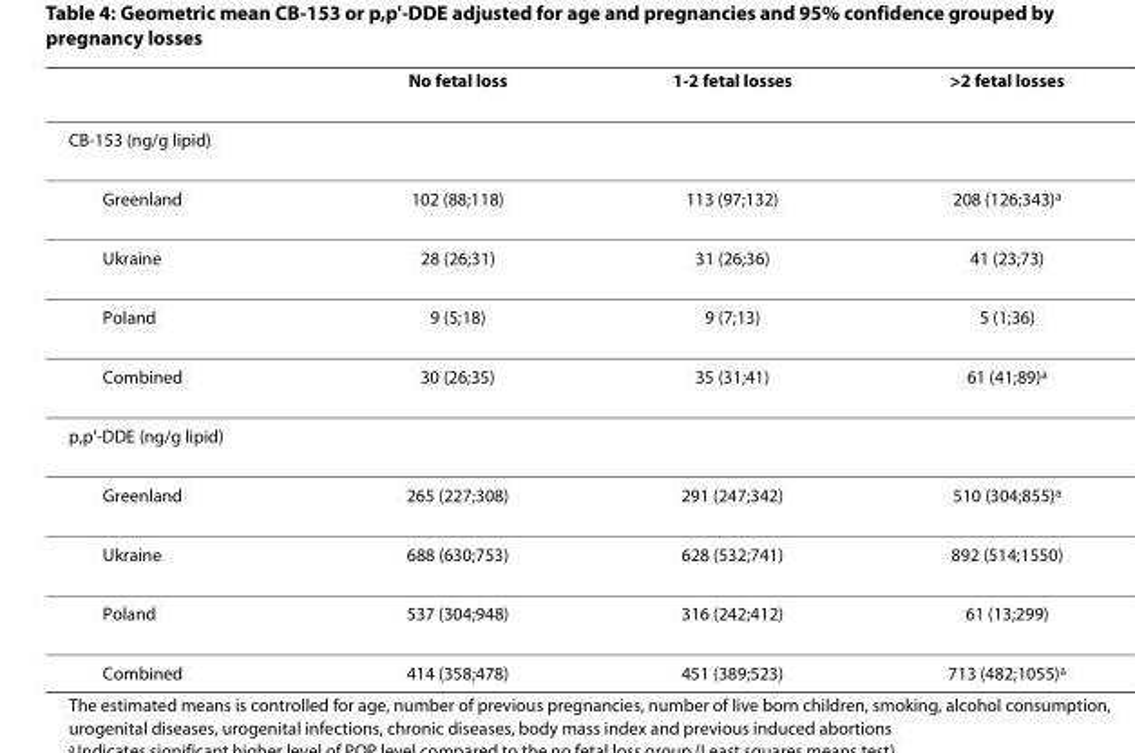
<table><thead><tr><td></td><td>No fetal loss</td><td>1-2 fetal losses</td><td>&gt;2 fetal losses</td></tr></thead><tbody><tr><td colspan="4">CB-153 (ng/g lipid)</td></tr><tr><td>Greenland</td><td>102 (88;118)</td><td>113 (97;132)</td><td>208 (126;343)<sup>a</sup></td></tr><tr><td>Ukraine</td><td>28 (26;31)</td><td>31 (26;36)</td><td>41 (23;73)</td></tr><tr><td>Poland</td><td>9 (5;18)</td><td>9 (7;13)</td><td>5 (1;36)</td></tr><tr><td>Combined</td><td>30 (26;35)</td><td>35 (31;41)</td><td>61 (41;89)<sup>a</sup></td></tr><tr><td colspan="4">p,p&#x27;-DDE (ng/g lipid)</td></tr><tr><td>Greenland</td><td>265 (227;308)</td><td>291 (247;342)</td><td>510 (304;855)<sup>a</sup></td></tr><tr><td>Ukraine</td><td>688 (630;753)</td><td>628 (532;741)</td><td>892 (514;1550)</td></tr><tr><td>Poland</td><td>537 (304;948)</td><td>316 (242;412)</td><td>61 (13;299)</td></tr><tr><td>Combined</td><td>414 (358;478)</td><td>451 (389;523)</td><td>713 (482;1055)<sup>a</sup></td></tr></tbody></table>